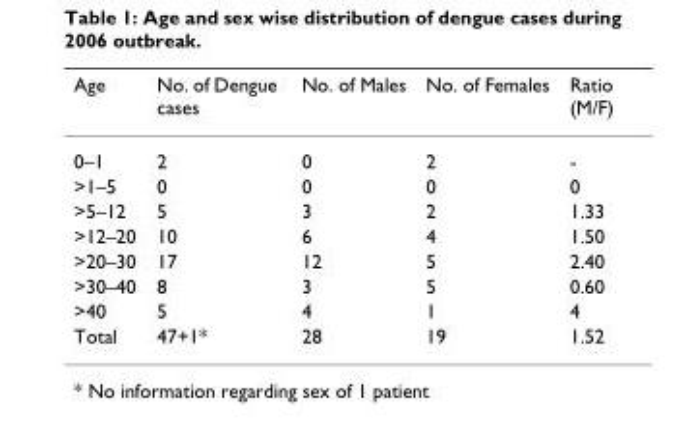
<table><thead><tr><td>Age</td><td>No. of Dengue cases</td><td>No. of Males</td><td>No. of Females</td><td>Ratio (M/F)</td></tr></thead><tbody><tr><td>0–1</td><td>2</td><td>0</td><td>2</td><td>-</td></tr><tr><td>&gt;1–5</td><td>0</td><td>0</td><td>0</td><td>0</td></tr><tr><td>&gt;5–12</td><td>5</td><td>3</td><td>2</td><td>1.33</td></tr><tr><td>&gt;12–20</td><td>10</td><td>6</td><td>4</td><td>1.50</td></tr><tr><td>&gt;20–30</td><td>17</td><td>12</td><td>5</td><td>2.40</td></tr><tr><td>&gt;30–40</td><td>8</td><td>3</td><td>5</td><td>0.60</td></tr><tr><td>&gt;40</td><td>5</td><td>4</td><td>1</td><td>4</td></tr><tr><td>Total</td><td>47+1*</td><td>28</td><td>19</td><td>1.52</td></tr></tbody></table>